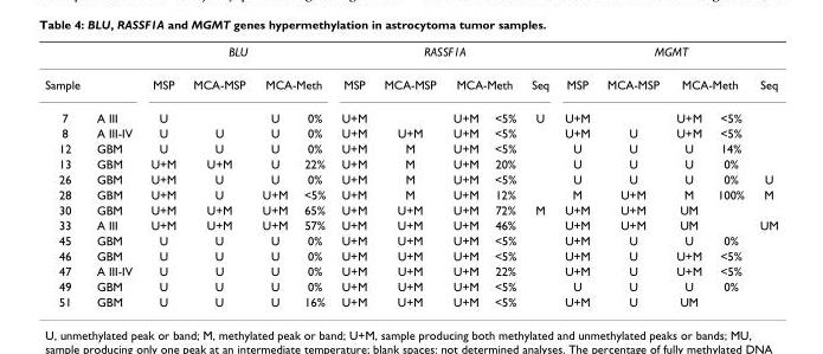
<table><thead><tr><td rowspan="3">Sample 7</td><td rowspan="3">A III</td><td colspan="4">BLU</td><td colspan="5">RASSF1A</td><td colspan="5">MGMT</td></tr><tr><td rowspan="2">MSP U</td><td rowspan="2">MCA-MSP</td><td colspan="2">MCA-Meth</td><td rowspan="2">MSP U+M</td><td rowspan="2">MCA-MSP</td><td colspan="2">MCA-Meth</td><td rowspan="2">Seq U</td><td rowspan="2">MSP U+M</td><td rowspan="2">MCA-MSP</td><td colspan="2">MCA-Meth</td><td rowspan="2">Seq</td></tr><tr><td>U</td><td>0%</td><td>U+M</td><td>&lt;5%</td><td>U+M</td><td>&lt;5%</td></tr></thead><tbody><tr><td>8</td><td>A III-IV</td><td>U</td><td>U</td><td>U</td><td>0%</td><td>U+M</td><td>U+M</td><td>U+M</td><td>&lt;5%</td><td></td><td>U+M</td><td>U</td><td>U+M</td><td>&lt;5%</td><td></td></tr><tr><td>12</td><td>GBM</td><td>U</td><td>U</td><td>U</td><td>0%</td><td>U+M</td><td>M</td><td>U+M</td><td>&lt;5%</td><td></td><td>U</td><td>U</td><td>U</td><td>14%</td><td></td></tr><tr><td>13</td><td>GBM</td><td>U+M</td><td>U+M</td><td>U</td><td>22%</td><td>U+M</td><td>M</td><td>U+M</td><td>20%</td><td></td><td>U</td><td>U</td><td>U</td><td>0%</td><td></td></tr><tr><td>26</td><td>GBM</td><td>U+M</td><td>U</td><td>U</td><td>0%</td><td>U+M</td><td>M</td><td>U+M</td><td>&lt;5%</td><td></td><td>U</td><td>U</td><td>U</td><td>0%</td><td>U</td></tr><tr><td>28</td><td>GBM</td><td>U+M</td><td>U</td><td>U+M</td><td>&lt;5%</td><td>U+M</td><td>M</td><td>U+M</td><td>12%</td><td></td><td>M</td><td>U+M</td><td>M</td><td>100%</td><td>M</td></tr><tr><td>30</td><td>GBM</td><td>U+M</td><td>U+M</td><td>U+M</td><td>65%</td><td>U+M</td><td>U+M</td><td>U+M</td><td>72%</td><td>M</td><td>U+M</td><td>U+M</td><td>UM</td><td></td><td></td></tr><tr><td>33</td><td>A III</td><td>U+M</td><td>U+M</td><td>U+M</td><td>57%</td><td>U+M</td><td>U+M</td><td>U+M</td><td>46%</td><td></td><td>U+M</td><td>U+M</td><td>UM</td><td></td><td>UM</td></tr><tr><td>45</td><td>GBM</td><td>U</td><td>U</td><td>U</td><td>0%</td><td>U+M</td><td>U+M</td><td>U+M</td><td>&lt;5%</td><td></td><td>U+M</td><td>U</td><td>U</td><td>0%</td><td></td></tr><tr><td>46</td><td>GBM</td><td>U</td><td>U</td><td>U</td><td>0%</td><td>U+M</td><td>U+M</td><td>U+M</td><td>&lt;5%</td><td></td><td>U+M</td><td>U</td><td>U+M</td><td>&lt;5%</td><td></td></tr><tr><td>47</td><td>A III-IV</td><td>U</td><td>U</td><td>U</td><td>0%</td><td>U+M</td><td>U+M</td><td>U+M</td><td>22%</td><td></td><td>U+M</td><td>U</td><td>U+M</td><td>&lt;5%</td><td></td></tr><tr><td>49</td><td>GBM</td><td>U</td><td>U</td><td>U</td><td>0%</td><td>U+M</td><td>U+M</td><td>U+M</td><td>&lt;5%</td><td></td><td>U</td><td>U</td><td>U</td><td>0%</td><td></td></tr><tr><td>51</td><td>GBM</td><td>U</td><td>U</td><td>U</td><td>16%</td><td>U+M</td><td>U+M</td><td>U+M</td><td>&lt;5%</td><td></td><td>U+M</td><td>U</td><td>UM</td><td></td><td></td></tr></tbody></table>